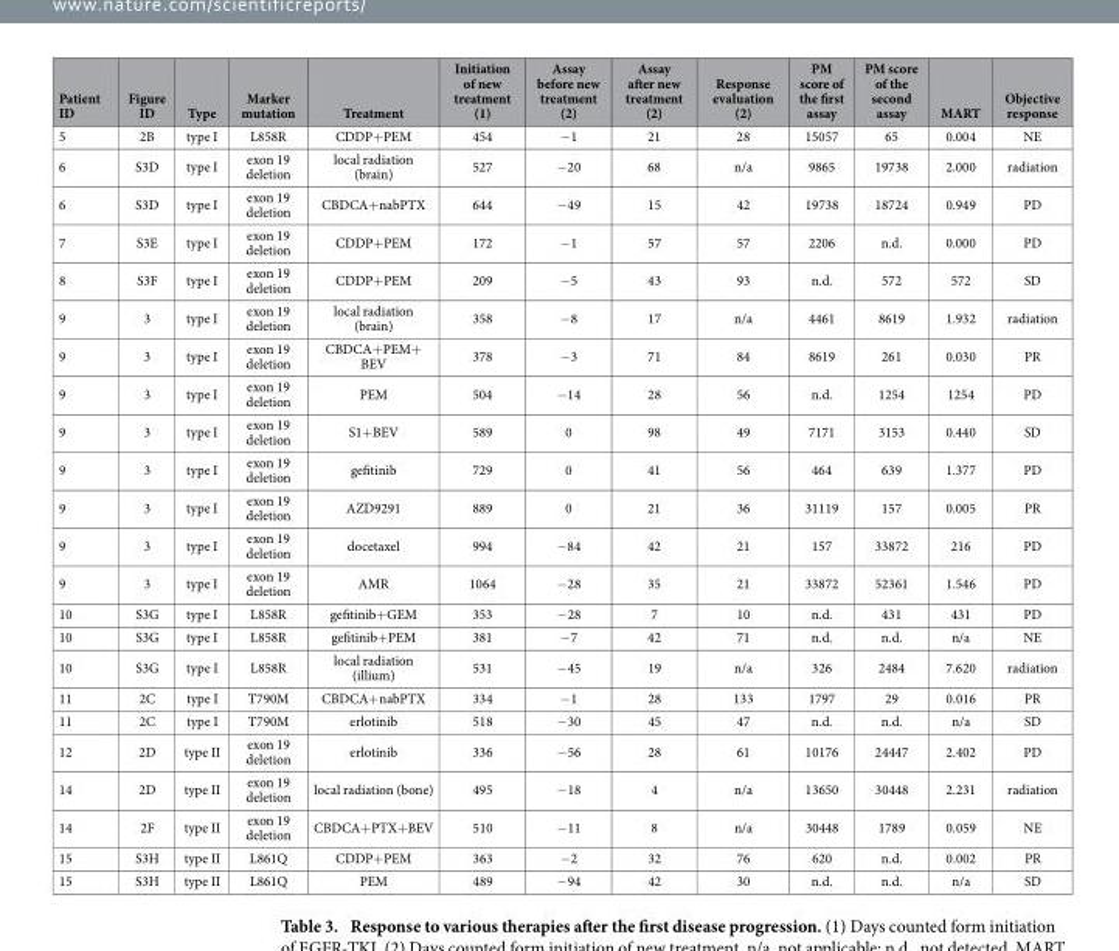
<table><thead><tr><td>Patient ID</td><td>Figure ID</td><td>Type</td><td>Marker mutation</td><td>Treatment</td><td>Initiation of new treatment (1)</td><td>Assay before new treatment (2)</td><td>Assay after new treatment (2)</td><td>Response evaluation (2)</td><td>PM score of the first assay</td><td>PM score of the second assay</td><td>MART</td><td>Objective response</td></tr></thead><tbody><tr><td>5</td><td>2B</td><td>type I</td><td>L858R</td><td>CDDP+ PEM</td><td>454</td><td>− 1</td><td>21</td><td>28</td><td>15057</td><td>65</td><td>0.004</td><td>NE</td></tr><tr><td>6</td><td>S3D</td><td>type I</td><td>exon 19 deletion</td><td>local radiation (brain)</td><td>527</td><td>− 20</td><td>68</td><td>n/a</td><td>9865</td><td>19738</td><td>2.000</td><td>radiation</td></tr><tr><td>6</td><td>S3D</td><td>type I</td><td>exon 19 deletion</td><td>CBDCA+ nabPTX</td><td>644</td><td>− 49</td><td>15</td><td>42</td><td>19738</td><td>18724</td><td>0.949</td><td>PD</td></tr><tr><td>7</td><td>S3E</td><td>type I</td><td>exon 19 deletion</td><td>CDDP+ PEM</td><td>172</td><td>− 1</td><td>57</td><td>57</td><td>2206</td><td>n.d.</td><td>0.000</td><td>PD</td></tr><tr><td>8</td><td>S3F</td><td>type I</td><td>exon 19 deletion</td><td>CDDP+ PEM</td><td>209</td><td>− 5</td><td>43</td><td>93</td><td>n.d.</td><td>572</td><td>572</td><td>SD</td></tr><tr><td>9</td><td>3</td><td>type I</td><td>exon 19 deletion</td><td>local radiation (brain)</td><td>358</td><td>− 8</td><td>17</td><td>n/a</td><td>4461</td><td>8619</td><td>1.932</td><td>radiation</td></tr><tr><td>9</td><td>3</td><td>type I</td><td>exon 19 deletion</td><td>CBDCA+ PEM+ BEV</td><td>378</td><td>− 3</td><td>71</td><td>84</td><td>8619</td><td>261</td><td>0.030</td><td>PR</td></tr><tr><td>9</td><td>3</td><td>type I</td><td>exon 19 deletion</td><td>PEM</td><td>504</td><td>− 14</td><td>28</td><td>56</td><td>n.d.</td><td>1254</td><td>1254</td><td>PD</td></tr><tr><td>9</td><td>3</td><td>type I</td><td>exon 19 deletion</td><td>S1+ BEV</td><td>589</td><td>0</td><td>98</td><td>49</td><td>7171</td><td>3153</td><td>0.440</td><td>SD</td></tr><tr><td>9</td><td>3</td><td>type I</td><td>exon 19 deletion</td><td>gefitinib</td><td>729</td><td>0</td><td>41</td><td>56</td><td>464</td><td>639</td><td>1.377</td><td>PD</td></tr><tr><td>9</td><td>3</td><td>type I</td><td>exon 19 deletion</td><td>AZD9291</td><td>889</td><td>0</td><td>21</td><td>36</td><td>31119</td><td>157</td><td>0.005</td><td>PR</td></tr><tr><td>9</td><td>3</td><td>type I</td><td>exon 19 deletion</td><td>docetaxel</td><td>994</td><td>− 84</td><td>42</td><td>21</td><td>157</td><td>33872</td><td>216</td><td>PD</td></tr><tr><td>9</td><td>3</td><td>type I</td><td>exon 19 deletion</td><td>AMR</td><td>1064</td><td>− 28</td><td>35</td><td>21</td><td>33872</td><td>52361</td><td>1.546</td><td>PD</td></tr><tr><td>10</td><td>S3G</td><td>type I</td><td>L858R</td><td>gefitinib+ GEM</td><td>353</td><td>− 28</td><td>7</td><td>10</td><td>n.d.</td><td>431</td><td>431</td><td>PD</td></tr><tr><td>10</td><td>S3G</td><td>type I</td><td>L858R</td><td>gefitinib+ PEM</td><td>381</td><td>− 7</td><td>42</td><td>71</td><td>n.d.</td><td>n.d.</td><td>n/a</td><td>NE</td></tr><tr><td>10</td><td>S3G</td><td>type I</td><td>L858R</td><td>local radiation (illium)</td><td>531</td><td>− 45</td><td>19</td><td>n/a</td><td>326</td><td>2484</td><td>7.620</td><td>radiation</td></tr><tr><td>11</td><td>2C</td><td>type I</td><td>T790M</td><td>CBDCA+ nabPTX</td><td>334</td><td>− 1</td><td>28</td><td>133</td><td>1797</td><td>29</td><td>0.016</td><td>PR</td></tr><tr><td>11</td><td>2C</td><td>type I</td><td>T790M</td><td>erlotinib</td><td>518</td><td>− 30</td><td>45</td><td>47</td><td>n.d.</td><td>n.d.</td><td>n/a</td><td>SD</td></tr><tr><td>12</td><td>2D</td><td>type II</td><td>exon 19 deletion</td><td>erlotinib</td><td>336</td><td>− 56</td><td>28</td><td>61</td><td>10176</td><td>24447</td><td>2.402</td><td>PD</td></tr><tr><td>14</td><td>2D</td><td>type II</td><td>exon 19 deletion</td><td>local radiation (bone)</td><td>495</td><td>− 18</td><td>4</td><td>n/a</td><td>13650</td><td>30448</td><td>2.231</td><td>radiation</td></tr><tr><td>14</td><td>2F</td><td>type II</td><td>exon 19 deletion</td><td>CBDCA+ PTX+ BEV</td><td>510</td><td>− 11</td><td>8</td><td>n/a</td><td>30448</td><td>1789</td><td>0.059</td><td>NE</td></tr><tr><td>15</td><td>S3H</td><td>type II</td><td>L861Q</td><td>CDDP+ PEM</td><td>363</td><td>− 2</td><td>32</td><td>76</td><td>620</td><td>n.d.</td><td>0.002</td><td>PR</td></tr><tr><td>15</td><td>S3H</td><td>type II</td><td>L861Q</td><td>PEM</td><td>489</td><td>− 94</td><td>42</td><td>30</td><td>n.d.</td><td>n.d.</td><td>n/a</td><td>SD</td></tr></tbody></table>